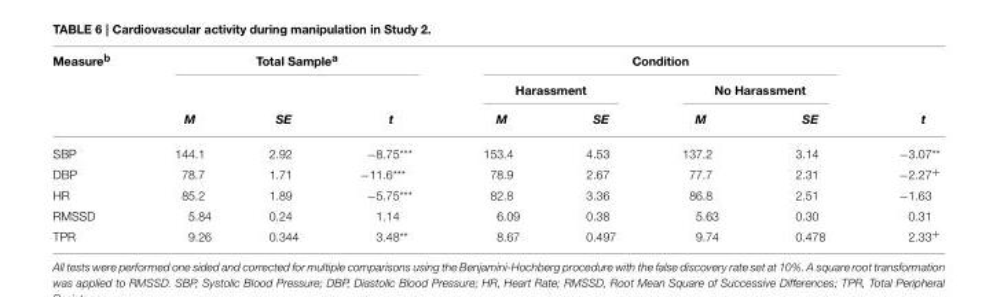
<table><thead><tr><td rowspan="3">Measure<sup>b</sup></td><td colspan="3">Total Sample<sup>a</sup></td><td colspan="4">Condition</td><td rowspan="3">t</td></tr><tr><td rowspan="2">M</td><td rowspan="2">SE</td><td rowspan="2">t</td><td colspan="2">Harassment</td><td colspan="2">No Harassment</td></tr><tr><td>M</td><td>SE</td><td>M</td><td>SE</td></tr></thead><tbody><tr><td>SBP</td><td>144.1</td><td>2.92</td><td>−8.75***</td><td>153.4</td><td>4.53</td><td>137.2</td><td>3.14</td><td>−3.07**</td></tr><tr><td>DBP</td><td>78.7</td><td>1.71</td><td>−11.6***</td><td>78.9</td><td>2.67</td><td>77.7</td><td>2.31</td><td>−2.27<sup>+</sup></td></tr><tr><td>HR</td><td>85.2</td><td>1.89</td><td>−5.75***</td><td>82.8</td><td>3.36</td><td>86.8</td><td>2.51</td><td>−1.63</td></tr><tr><td>RMSSD</td><td>5.84</td><td>0.24</td><td>1.14</td><td>6.09</td><td>0.38</td><td>5.63</td><td>0.30</td><td>0.31</td></tr><tr><td>TPR</td><td>9.26</td><td>0.344</td><td>3.48**</td><td>8.67</td><td>0.497</td><td>9.74</td><td>0.478</td><td>2.33<sup>+</sup></td></tr></tbody></table>